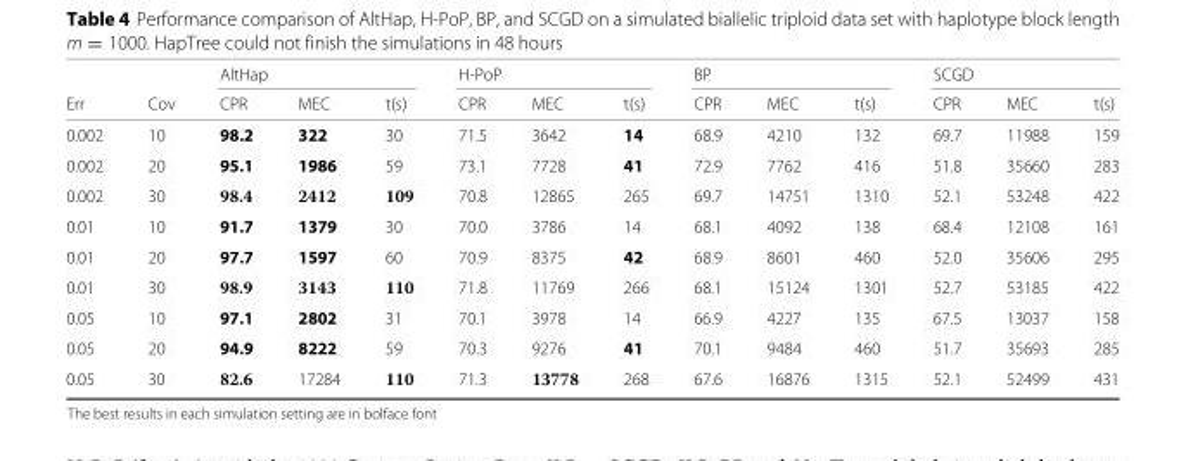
<table><thead><tr><td rowspan="2">Err</td><td rowspan="2">Cov</td><td colspan="3">AltHap</td><td colspan="3">H-PoP</td><td colspan="3">BP</td><td colspan="3">SCGD</td></tr><tr><td>CPR</td><td>MEC</td><td>t(s)</td><td>CPR</td><td>MEC</td><td>t(s)</td><td>CPR</td><td>MEC</td><td>t(s)</td><td>CPR</td><td>MEC</td><td>t(s)</td></tr></thead><tbody><tr><td>0.002</td><td>10</td><td>98.2</td><td>322</td><td>30</td><td>71.5</td><td>3642</td><td>14</td><td>68.9</td><td>4210</td><td>132</td><td>69.7</td><td>11988</td><td>159</td></tr><tr><td>0.002</td><td>20</td><td>95.1</td><td>1986</td><td>59</td><td>73.1</td><td>7728</td><td>41</td><td>72.9</td><td>7762</td><td>416</td><td>51.8</td><td>35660</td><td>283</td></tr><tr><td>0.002</td><td>30</td><td>98.4</td><td>2412</td><td>109</td><td>70.8</td><td>12865</td><td>265</td><td>69.7</td><td>14751</td><td>1310</td><td>52.1</td><td>53248</td><td>422</td></tr><tr><td>0.01</td><td>10</td><td>91.7</td><td>1379</td><td>30</td><td>70.0</td><td>3786</td><td>14</td><td>68.1</td><td>4092</td><td>138</td><td>68.4</td><td>12108</td><td>161</td></tr><tr><td>0.01</td><td>20</td><td>97.7</td><td>1597</td><td>60</td><td>70.9</td><td>8375</td><td>42</td><td>68.9</td><td>8601</td><td>460</td><td>52.0</td><td>35606</td><td>295</td></tr><tr><td>0.01</td><td>30</td><td>98.9</td><td>3143</td><td>110</td><td>71.8</td><td>11769</td><td>266</td><td>68.1</td><td>15124</td><td>1301</td><td>52.7</td><td>53185</td><td>422</td></tr><tr><td>0.05</td><td>10</td><td>97.1</td><td>2802</td><td>31</td><td>70.1</td><td>3978</td><td>14</td><td>66.9</td><td>4227</td><td>135</td><td>67.5</td><td>13037</td><td>158</td></tr><tr><td>0.05</td><td>20</td><td>94.9</td><td>8222</td><td>59</td><td>70.3</td><td>9276</td><td>41</td><td>70.1</td><td>9484</td><td>460</td><td>51.7</td><td>35693</td><td>285</td></tr><tr><td>0.05</td><td>30</td><td>82.6</td><td>17284</td><td>110</td><td>71.3</td><td>13778</td><td>268</td><td>67.6</td><td>16876</td><td>1315</td><td>52.1</td><td>52499</td><td>431</td></tr></tbody></table>